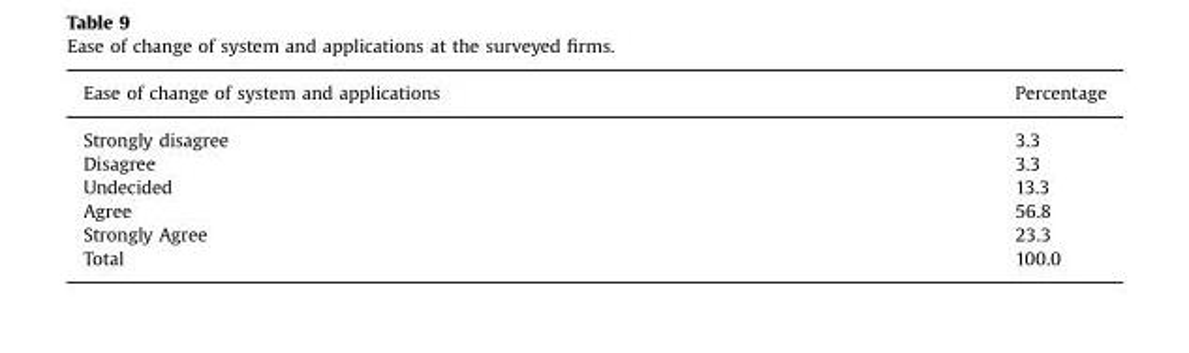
<table><thead><tr><td>Ease of change of system and applications</td><td>Percentage</td></tr></thead><tbody><tr><td>Strongly disagree</td><td>3.3</td></tr><tr><td>Disagree</td><td>3.3</td></tr><tr><td>Undecided</td><td>13.3</td></tr><tr><td>Agree</td><td>56.8</td></tr><tr><td>Strongly Agree</td><td>23.3</td></tr><tr><td>Total</td><td>100.0</td></tr></tbody></table>